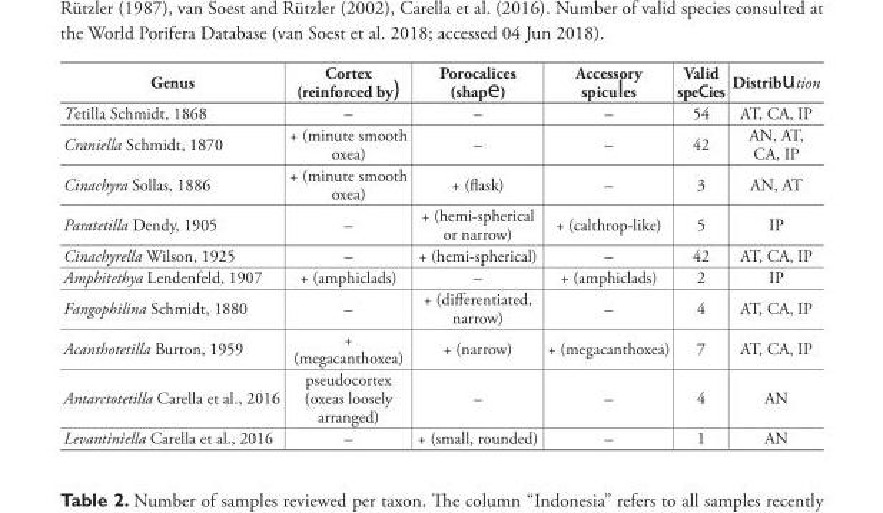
<table><thead><tr><td>Genus</td><td>Cortex (reinforced by)</td><td>Porocalices (shape)</td><td>Accessory spicules</td><td>Valid species</td><td>Distribution</td></tr></thead><tbody><tr><td>Tetilla Schmidt, 1868</td><td>–</td><td>–</td><td>–</td><td>54</td><td>AT, CA, IP</td></tr><tr><td>Craniella Schmidt, 1870</td><td>+ (minute smooth oxea)</td><td>–</td><td>–</td><td>42</td><td>AN, AT, CA, IP</td></tr><tr><td>Cinachyra Sollas, 1886</td><td>+ (minute smooth oxea)</td><td>+ (flask)</td><td>–</td><td>3</td><td>AN, AT</td></tr><tr><td>Paratetilla Dendy, 1905</td><td>–</td><td>+ (hemi-spherical or narrow)</td><td>+ (calthrop-like)</td><td>5</td><td>IP</td></tr><tr><td>Cinachyrella Wilson, 1925</td><td>–</td><td>+ (hemi-spherical)</td><td>–</td><td>42</td><td>AT, CA, IP</td></tr><tr><td>Amphitethya Lendenfeld, 1907</td><td>+ (amphiclads)</td><td>–</td><td>+ (amphiclads)</td><td>2</td><td>IP</td></tr><tr><td>Fangophilina Schmidt, 1880</td><td>–</td><td>+ (differentiated, narrow)</td><td>–</td><td>4</td><td>AT, CA, IP</td></tr><tr><td>Acanthotetilla Burton, 1959</td><td>+ (megacanthoxea)</td><td>+ (narrow)</td><td>+ (megacanthoxea)</td><td>7</td><td>AT, CA, IP</td></tr><tr><td>Antarctotetilla Carella et al., 2016</td><td>pseudocortex (oxeas loosely arranged)</td><td>–</td><td>–</td><td>4</td><td>AN</td></tr><tr><td>Levantiniella Carella et al., 2016</td><td>–</td><td>+ (small, rounded)</td><td>–</td><td>1</td><td>AN</td></tr></tbody></table>